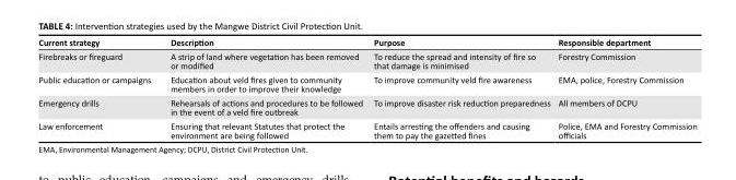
<table><thead><tr><td>Current strategy</td><td>Description</td><td>Purpose</td><td>Responsible department</td></tr></thead><tbody><tr><td>Firebreaks or fireguard</td><td>A strip of land where vegetation has been removed or modified</td><td>To reduce the spread and intensity of fire so that damage is minimised</td><td>Forestry Commission</td></tr><tr><td>Public education or campaigns</td><td>Education about veld fires given to community members in order to improve their knowledge</td><td>To improve community veld fire awareness</td><td>EMA, police, Forestry Commission</td></tr><tr><td>Emergency drills</td><td>Rehearsals of actions and procedures to be followed in the event of a veld fire outbreak</td><td>To improve disaster risk reduction preparedness</td><td>All members of DCPU</td></tr><tr><td>Law enforcement</td><td>Ensuring that relevant Statutes that protect the environment are being followed</td><td>Entails arresting the offenders and causing them to pay the gazetted fines</td><td>Police, EMA and Forestry Commission officials</td></tr></tbody></table>